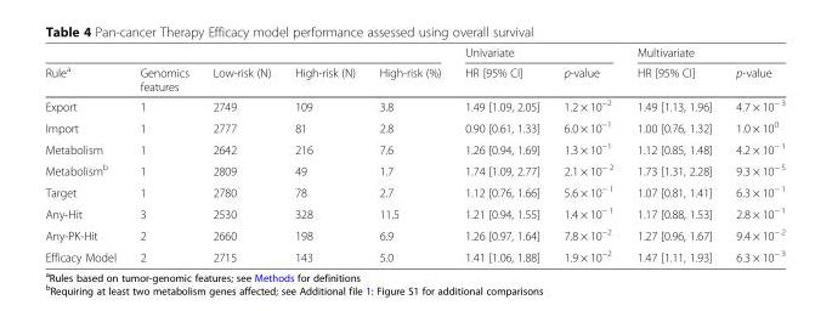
<table><thead><tr><td rowspan="2">Rule<sup>a</sup></td><td rowspan="2">Genomics features</td><td rowspan="2">Low-risk (N)</td><td rowspan="2">High-risk (N)</td><td rowspan="2">High-risk (%)</td><td colspan="2">Univariate</td><td colspan="2">Multivariate</td></tr><tr><td>HR [95% CI]</td><td>p-value</td><td>HR [95% CI]</td><td>p-value</td></tr></thead><tbody><tr><td>Export</td><td>1</td><td>2749</td><td>109</td><td>3.8</td><td>1.49 [1.09, 2.05]</td><td>1.2 × 10<sup>−2</sup></td><td>1.49 [1.13, 1.96]</td><td>4.7 × 10<sup>− 3</sup></td></tr><tr><td>Import</td><td>1</td><td>2777</td><td>81</td><td>2.8</td><td>0.90 [0.61, 1.33]</td><td>6.0 × 10<sup>−1</sup></td><td>1.00 [0.76, 1.32]</td><td>1.0 × 10<sup>0</sup></td></tr><tr><td>Metabolism</td><td>1</td><td>2642</td><td>216</td><td>7.6</td><td>1.26 [0.94, 1.69]</td><td>1.3 × 10<sup>−1</sup></td><td>1.12 [0.85, 1.48]</td><td>4.2 × 10<sup>− 1</sup></td></tr><tr><td>Metabolism<sup>b</sup></td><td>1</td><td>2809</td><td>49</td><td>1.7</td><td>1.74 [1.09, 2.77]</td><td>2.1 × 10<sup>− 2</sup></td><td>1.73 [1.31, 2.28]</td><td>9.3 × 10<sup>− 5</sup></td></tr><tr><td>Target</td><td>1</td><td>2780</td><td>78</td><td>2.7</td><td>1.12 [0.76, 1.66]</td><td>5.6 × 10<sup>− 1</sup></td><td>1.07 [0.81, 1.41]</td><td>6.3 × 10<sup>− 1</sup></td></tr><tr><td>Any-Hit</td><td>3</td><td>2530</td><td>328</td><td>11.5</td><td>1.21 [0.94, 1.55]</td><td>1.4 × 10<sup>− 1</sup></td><td>1.17 [0.88, 1.53]</td><td>2.8 × 10<sup>− 1</sup></td></tr><tr><td>Any-PK-Hit</td><td>2</td><td>2660</td><td>198</td><td>6.9</td><td>1.26 [0.97, 1.64]</td><td>7.8 × 10<sup>−2</sup></td><td>1.27 [0.96, 1.67]</td><td>9.4 × 10<sup>− 2</sup></td></tr><tr><td>Efficacy Model</td><td>2</td><td>2715</td><td>143</td><td>5.0</td><td>1.41 [1.06, 1.88]</td><td>1.9 × 10<sup>−2</sup></td><td>1.47 [1.11, 1.93]</td><td>6.3 × 10<sup>− 3</sup></td></tr></tbody></table>